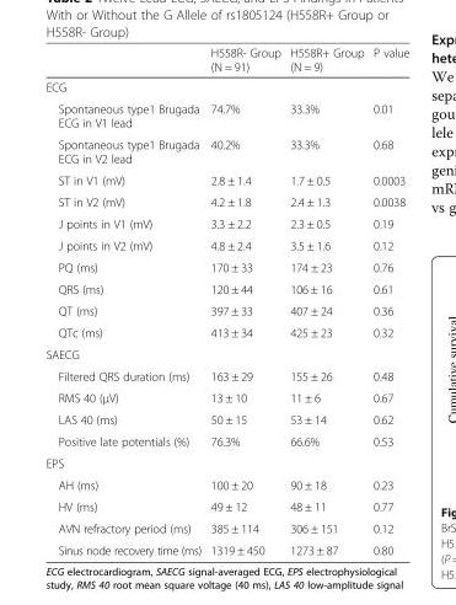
<table><thead><tr><td></td><td>H558R- Group (N = 91)</td><td>H558R+ Group (N = 9)</td><td>P value</td></tr></thead><tbody><tr><td colspan="4">ECG</td></tr><tr><td>Spontaneous type1 Brugada ECG in V1 lead</td><td>74.7%</td><td>33.3%</td><td>0.01</td></tr><tr><td>Spontaneous type1 Brugada ECG in V2 lead</td><td>40.2%</td><td>33.3%</td><td>0.68</td></tr><tr><td>ST in V1 (mV)</td><td>2.8 ± 1.4</td><td>1.7 ± 0.5</td><td>0.0003</td></tr><tr><td>ST in V2 (mV)</td><td>4.2 ± 1.8</td><td>2.4 ± 1.3</td><td>0.0038</td></tr><tr><td>J points in V1 (mV)</td><td>3.3 ± 2.2</td><td>2.3 ± 0.5</td><td>0.19</td></tr><tr><td>J points in V2 (mV)</td><td>4.8 ± 2.4</td><td>3.5 ± 1.6</td><td>0.12</td></tr><tr><td>PQ (ms)</td><td>170 ± 33</td><td>174 ± 23</td><td>0.76</td></tr><tr><td>QRS (ms)</td><td>120 ± 44</td><td>106 ± 16</td><td>0.61</td></tr><tr><td>QT (ms)</td><td>397 ± 33</td><td>407 ± 24</td><td>0.36</td></tr><tr><td>QTc (ms)</td><td>413 ± 34</td><td>425 ± 23</td><td>0.32</td></tr><tr><td colspan="4">SAECG</td></tr><tr><td>Filtered QRS duration (ms)</td><td>163 ± 29</td><td>155 ± 26</td><td>0.48</td></tr><tr><td>RMS 40 (μV)</td><td>13 ± 10</td><td>11 ± 6</td><td>0.67</td></tr><tr><td>LAS 40 (ms)</td><td>50 ± 15</td><td>53 ± 14</td><td>0.62</td></tr><tr><td>Positive late potentials (%)</td><td>76.3%</td><td>66.6%</td><td>0.53</td></tr><tr><td colspan="4">EPS</td></tr><tr><td>AH (ms)</td><td>100 ± 20</td><td>90 ± 18</td><td>0.23</td></tr><tr><td>HV (ms)</td><td>49 ± 12</td><td>48 ± 11</td><td>0.77</td></tr><tr><td>AVN refractory period (ms)</td><td>385 ± 114</td><td>306 ± 151</td><td>0.12</td></tr><tr><td>Sinus node recovery time (ms)</td><td>1319 ± 450</td><td>1273 ± 87</td><td>0.80</td></tr></tbody></table>